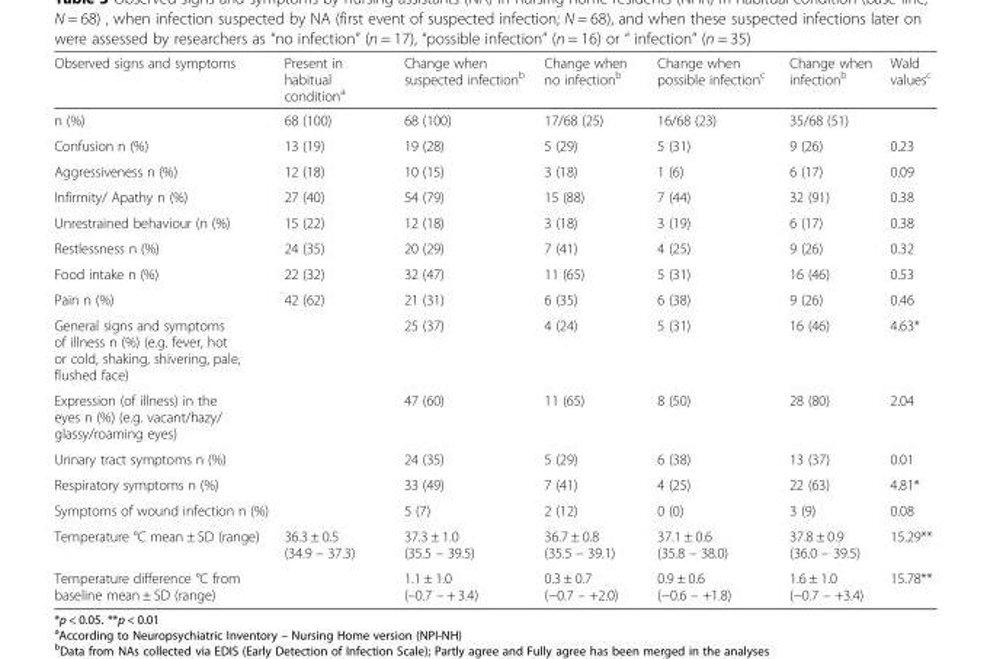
<table><thead><tr><td>Observed signs and symptoms</td><td>Present in habitual condition<sup>a</sup></td><td>Change when suspected infection<sup>b</sup></td><td>Change when no infection<sup>b</sup></td><td>Change when possible infection<sup>c</sup></td><td>Change when infection<sup>b</sup></td><td>Wald values<sup>c</sup></td></tr></thead><tbody><tr><td>n (%)</td><td>68 (100)</td><td>68 (100)</td><td>17/68 (25)</td><td>16/68 (23)</td><td>35/68 (51)</td><td></td></tr><tr><td>Confusion n (%)</td><td>13 (19)</td><td>19 (28)</td><td>5 (29)</td><td>5 (31)</td><td>9 (26)</td><td>0.23</td></tr><tr><td>Aggressiveness n (%)</td><td>12 (18)</td><td>10 (15)</td><td>3 (18)</td><td>1 (6)</td><td>6 (17)</td><td>0.09</td></tr><tr><td>Infirmity/ Apathy n (%)</td><td>27 (40)</td><td>54 (79)</td><td>15 (88)</td><td>7 (44)</td><td>32 (91)</td><td>0.38</td></tr><tr><td>Unrestrained behaviour (n (%)</td><td>15 (22)</td><td>12 (18)</td><td>3 (18)</td><td>3 (19)</td><td>6 (17)</td><td>0.38</td></tr><tr><td>Restlessness n (%)</td><td>24 (35)</td><td>20 (29)</td><td>7 (41)</td><td>4 (25)</td><td>9 (26)</td><td>0.32</td></tr><tr><td>Food intake n (%)</td><td>22 (32)</td><td>32 (47)</td><td>11 (65)</td><td>5 (31)</td><td>16 (46)</td><td>0.53</td></tr><tr><td>Pain n (%)</td><td>42 (62)</td><td>21 (31)</td><td>6 (35)</td><td>6 (38)</td><td>9 (26)</td><td>0.46</td></tr><tr><td>General signs and symptoms of illness n (%) (e.g. fever, hot or cold, shaking, shivering, pale, flushed face)</td><td></td><td>25 (37)</td><td>4 (24)</td><td>5 (31)</td><td>16 (46)</td><td>4.63*</td></tr><tr><td>Expression (of illness) in the eyes n (%) (e.g. vacant/hazy/ glassy/roaming eyes)</td><td></td><td>47 (60)</td><td>11 (65)</td><td>8 (50)</td><td>28 (80)</td><td>2.04</td></tr><tr><td>Urinary tract symptoms n (%)</td><td></td><td>24 (35)</td><td>5 (29)</td><td>6 (38)</td><td>13 (37)</td><td>0.01</td></tr><tr><td>Respiratory symptoms n (%)</td><td></td><td>33 (49)</td><td>7 (41)</td><td>4 (25)</td><td>22 (63)</td><td>4.81*</td></tr><tr><td>Symptoms of wound infection n (%)</td><td></td><td>5 (7)</td><td>2 (12)</td><td>0 (0)</td><td>3 (9)</td><td>0.08</td></tr><tr><td>Temperature °C mean ± SD (range)</td><td>36.3 ± 0.5 (34.9 – 37.3)</td><td>37.3 ± 1.0 (35.5 – 39.5)</td><td>36.7 ± 0.8 (35.5 – 39.1)</td><td>37.1 ± 0.6 (35.8 – 38.0)</td><td>37.8 ± 0.9 (36.0 – 39.5)</td><td>15.29**</td></tr><tr><td>Temperature difference °C from baseline mean ± SD (range)</td><td></td><td>1.1 ± 1.0 (–0.7 – + 3.4)</td><td>0.3 ± 0.7 (−0.7 – +2.0)</td><td>0.9 ± 0.6 (−0.6 – +1.8)</td><td>1.6 ± 1.0 (−0.7 – +3.4)</td><td>15.78**</td></tr></tbody></table>